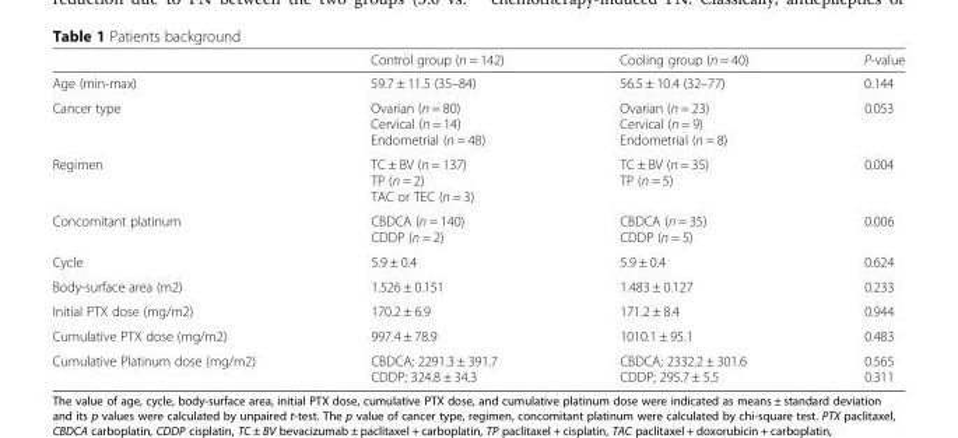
<table><thead><tr><td></td><td>Control group (n = 142)</td><td>Cooling group (n = 40)</td><td>P-value</td></tr></thead><tbody><tr><td>Age (min-max)</td><td>59.7 ± 11.5 (35–84)</td><td>56.5 ± 10.4 (32–77)</td><td>0.144</td></tr><tr><td>Cancer type</td><td>Ovarian (n = 80) Cervical (n = 14) Endometrial (n = 48)</td><td>Ovarian (n = 23) Cervical (n = 9) Endometrial (n = 8)</td><td>0.053</td></tr><tr><td>Regimen</td><td>TC ± BV (n = 137) TP (n = 2) TAC or TEC (n = 3)</td><td>TC ± BV (n = 35) TP (n = 5)</td><td>0.004</td></tr><tr><td>Concomitant platinum</td><td>CBDCA (n = 140) CDDP (n = 2)</td><td>CBDCA (n = 35) CDDP (n = 5)</td><td>0.006</td></tr><tr><td>Cycle</td><td>5.9 ± 0.4</td><td>5.9 ± 0.4</td><td>0.624</td></tr><tr><td>Body-surface area (m2)</td><td>1.526 ± 0.151</td><td>1.483 ± 0.127</td><td>0.233</td></tr><tr><td>Initial PTX dose (mg/m2)</td><td>170.2 ± 6.9</td><td>171.2 ± 8.4</td><td>0.944</td></tr><tr><td>Cumulative PTX dose (mg/m2)</td><td>997.4 ± 78.9</td><td>1010.1 ± 95.1</td><td>0.483</td></tr><tr><td>Cumulative Platinum dose (mg/m2)</td><td>CBDCA; 2291.3 ± 391.7 CDDP; 324.8 ± 34.3</td><td>CBDCA; 2332.2 ± 301.6 CDDP; 295.7 ± 5.5</td><td>0.565 0.311</td></tr></tbody></table>